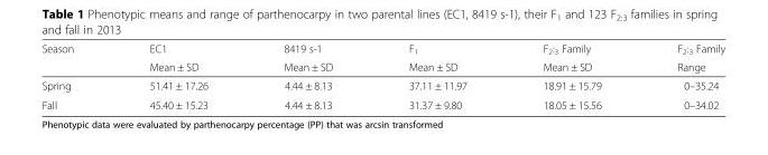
<table><thead><tr><td rowspan="2">Season</td><td rowspan="2">EC1 Mean ± SD</td><td rowspan="2">8419 s-1 Mean ± SD</td><td rowspan="2">F<sub>1</sub> Mean ± SD</td><td rowspan="2">F<sub>2</sub>:<sub>3</sub> Family Mean ± SD</td><td rowspan="2">F<sub>2</sub>:<sub>3</sub> Family Range</td></tr><tr></tr></thead><tbody><tr><td>Spring</td><td>51.41 ± 17.26</td><td>4.44 ± 8.13</td><td>37.11 ± 11.97</td><td>18.91 ± 15.79</td><td>0–35.24</td></tr><tr><td>Fall</td><td>45.40 ± 15.23</td><td>4.44 ± 8.13</td><td>31.37 ± 9.80</td><td>18.05 ± 15.56</td><td>0–34.02</td></tr></tbody></table>